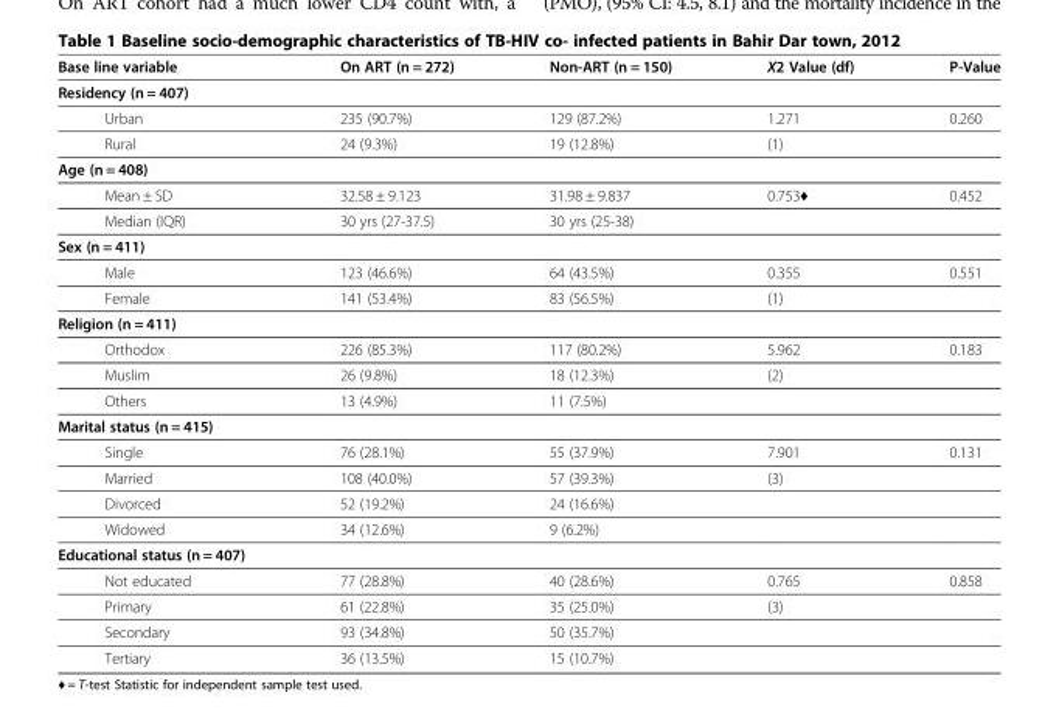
<table><thead><tr><td>Base line variable</td><td>On ART (n = 272)</td><td>Non-ART (n = 150)</td><td>X2 Value (df)</td><td>P-Value</td></tr></thead><tbody><tr><td colspan="5">Residency (n = 407)</td></tr><tr><td>Urban</td><td>235 (90.7%)</td><td>129 (87.2%)</td><td>1.271</td><td>0.260</td></tr><tr><td>Rural</td><td>24 (9.3%)</td><td>19 (12.8%)</td><td>(1)</td><td></td></tr><tr><td colspan="5">Age (n = 408)</td></tr><tr><td>Mean ± SD</td><td>32.58 ± 9.123</td><td>31.98 ± 9.837</td><td>0.753♦</td><td>0.452</td></tr><tr><td>Median (IQR)</td><td>30 yrs (27-37.5)</td><td>30 yrs (25-38)</td><td></td><td></td></tr><tr><td colspan="5">Sex (n = 411)</td></tr><tr><td>Male</td><td>123 (46.6%)</td><td>64 (43.5%)</td><td>0.355</td><td>0.551</td></tr><tr><td>Female</td><td>141 (53.4%)</td><td>83 (56.5%)</td><td>(1)</td><td></td></tr><tr><td colspan="5">Religion (n = 411)</td></tr><tr><td>Orthodox</td><td>226 (85.3%)</td><td>117 (80.2%)</td><td>5.962</td><td>0.183</td></tr><tr><td>Muslim</td><td>26 (9.8%)</td><td>18 (12.3%)</td><td>(2)</td><td></td></tr><tr><td>Others</td><td>13 (4.9%)</td><td>11 (7.5%)</td><td></td><td></td></tr><tr><td colspan="5">Marital status (n = 415)</td></tr><tr><td>Single</td><td>76 (28.1%)</td><td>55 (37.9%)</td><td>7.901</td><td>0.131</td></tr><tr><td>Married</td><td>108 (40.0%)</td><td>57 (39.3%)</td><td>(3)</td><td></td></tr><tr><td>Divorced</td><td>52 (19.2%)</td><td>24 (16.6%)</td><td></td><td></td></tr><tr><td>Widowed</td><td>34 (12.6%)</td><td>9 (6.2%)</td><td></td><td></td></tr><tr><td colspan="5">Educational status (n = 407)</td></tr><tr><td>Not educated</td><td>77 (28.8%)</td><td>40 (28.6%)</td><td>0.765</td><td>0.858</td></tr><tr><td>Primary</td><td>61 (22.8%)</td><td>35 (25.0%)</td><td>(3)</td><td></td></tr><tr><td>Secondary</td><td>93 (34.8%)</td><td>50 (35.7%)</td><td></td><td></td></tr><tr><td>Tertiary</td><td>36 (13.5%)</td><td>15 (10.7%)</td><td></td><td></td></tr></tbody></table>